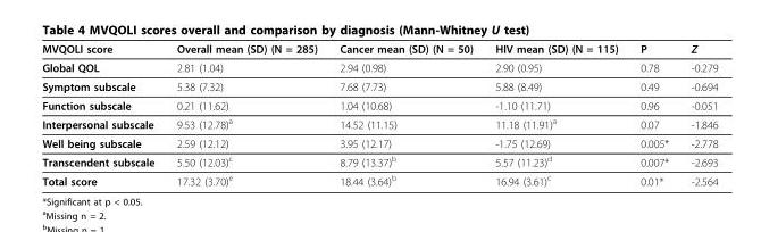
<table><thead><tr><td>MVQOLI score</td><td>Overall mean (SD) (N = 285)</td><td>Cancer mean (SD) (N = 50)</td><td>HIV mean (SD) (N = 115)</td><td>P</td><td>Z</td></tr></thead><tbody><tr><td>Global QOL</td><td>2.81 (1.04)</td><td>2.94 (0.98)</td><td>2.90 (0.95)</td><td>0.78</td><td>-0.279</td></tr><tr><td>Symptom subscale</td><td>5.38 (7.32)</td><td>7.68 (7.73)</td><td>5.88 (8.49)</td><td>0.49</td><td>-0.694</td></tr><tr><td>Function subscale</td><td>0.21 (11.62)</td><td>1.04 (10.68)</td><td>-1.10 (11.71)</td><td>0.96</td><td>-0.051</td></tr><tr><td>Interpersonal subscale</td><td>9.53 (12.78)<sup>a</sup></td><td>14.52 (11.15)</td><td>11.18 (11.91)<sup>a</sup></td><td>0.07</td><td>-1.846</td></tr><tr><td>Well being subscale</td><td>2.59 (12.12)</td><td>3.95 (12.17)</td><td>-1.75 (12.69)</td><td>0.005*</td><td>-2.778</td></tr><tr><td>Transcendent subscale</td><td>5.50 (12.03)<sup>c</sup></td><td>8.79 (13.37)<sup>b</sup></td><td>5.57 (11.23)<sup>d</sup></td><td>0.007*</td><td>-2.693</td></tr><tr><td>Total score</td><td>17.32 (3.70)<sup>e</sup></td><td>18.44 (3.64)<sup>b</sup></td><td>16.94 (3.61)<sup>c</sup></td><td>0.01*</td><td>-2.564</td></tr></tbody></table>